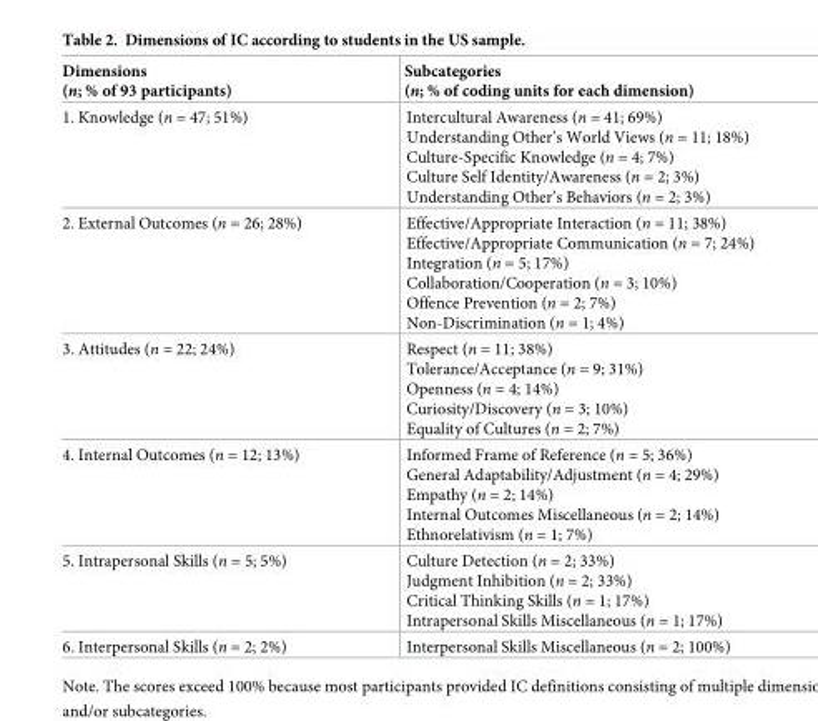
<table><thead><tr><td>Dimensions (n; % of 93 participants)</td><td>Subcategories (n; % of coding units for each dimension)</td></tr></thead><tbody><tr><td>1. Knowledge (n = 47; 51%)</td><td>Intercultural Awareness (n = 41; 69%) Understanding Other’s World Views (n = 11; 18%) Culture-Specific Knowledge (n = 4; 7%) Culture Self Identity/Awareness (n = 2; 3%) Understanding Other’s Behaviors (n = 2; 3%)</td></tr><tr><td>2. External Outcomes (n = 26; 28%)</td><td>Effective/Appropriate Interaction (n = 11; 38%) Effective/Appropriate Communication (n = 7; 24%) Integration (n = 5; 17%) Collaboration/Cooperation (n = 3; 10%) Offence Prevention (n = 2; 7%) Non-Discrimination (n = 1; 4%)</td></tr><tr><td>3. Attitudes (n = 22; 24%)</td><td>Respect (n = 11; 38%) Tolerance/Acceptance (n = 9; 31%) Openness (n = 4; 14%) Curiosity/Discovery (n = 3; 10%) Equality of Cultures (n = 2; 7%)</td></tr><tr><td>4. Internal Outcomes (n = 12; 13%)</td><td>Informed Frame of Reference (n = 5; 36%) General Adaptability/Adjustment (n = 4; 29%) Empathy (n = 2; 14%) Internal Outcomes Miscellaneous (n = 2; 14%) Ethnorelativism (n = 1; 7%)</td></tr><tr><td>5. Intrapersonal Skills (n = 5; 5%)</td><td>Culture Detection (n = 2; 33%) Judgment Inhibition (n = 2; 33%) Critical Thinking Skills (n = 1; 17%) Intrapersonal Skills Miscellaneous (n = 1; 17%)</td></tr><tr><td>6. Interpersonal Skills (n = 2; 2%)</td><td>Interpersonal Skills Miscellaneous (n = 2; 100%)</td></tr></tbody></table>